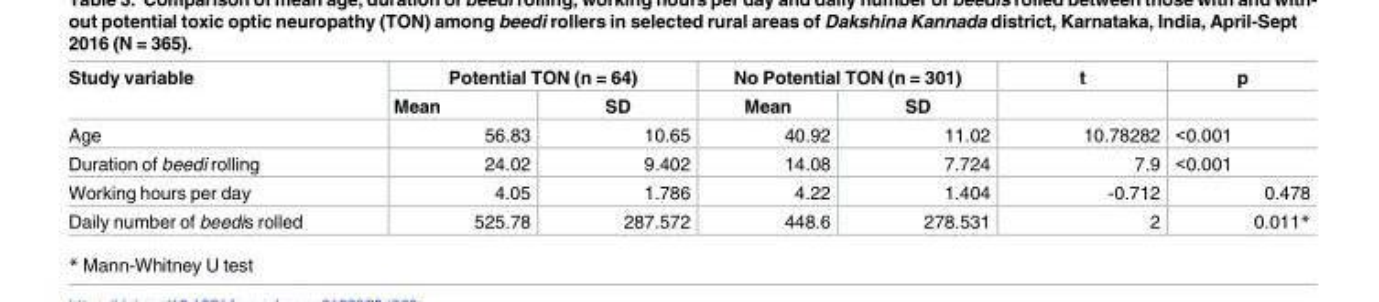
<table><thead><tr><td rowspan="2">Study variable</td><td colspan="2">Potential TON (n = 64)</td><td colspan="2">No Potential TON (n = 301)</td><td rowspan="2">t</td><td rowspan="2">p</td></tr><tr><td>Mean</td><td>SD</td><td>Mean</td><td>SD</td></tr></thead><tbody><tr><td>Age</td><td>56.83</td><td>10.65</td><td>40.92</td><td>11.02</td><td>10.78282</td><td>&lt;0.001</td></tr><tr><td>Duration of beedi rolling</td><td>24.02</td><td>9.402</td><td>14.08</td><td>7.724</td><td>7.9</td><td>&lt;0.001</td></tr><tr><td>Working hours per day</td><td>4.05</td><td>1.786</td><td>4.22</td><td>1.404</td><td>-0.712</td><td>0.478</td></tr><tr><td>Daily number of beedis rolled</td><td>525.78</td><td>287.572</td><td>448.6</td><td>278.531</td><td>2</td><td>0.011*</td></tr></tbody></table>